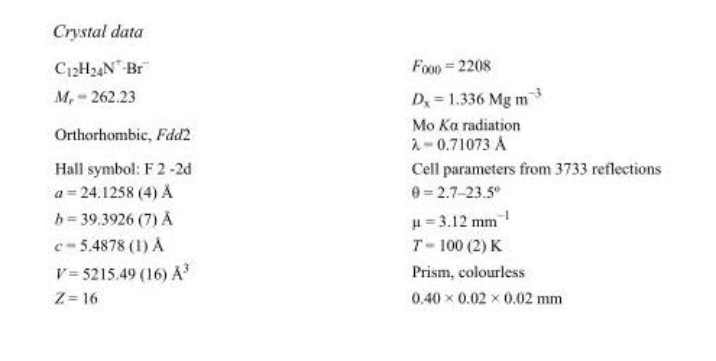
<table><tbody><tr><td>C<sub>12</sub>H<sub>24</sub>N<sup>+</sup>·Br<sup>–</sup></td><td>F<sub>000</sub> = 2208</td></tr><tr><td>M<sub>r</sub> = 262.23</td><td>D<sub>x</sub> = 1.336 Mg m<sup>−3</sup></td></tr><tr><td>Orthorhombic, Fdd2</td><td>Mo Kα radiation λ = 0.71073 Å</td></tr><tr><td>Hall symbol: F 2 -2d</td><td>Cell parameters from 3733 reflections</td></tr><tr><td>a = 24.1258 (4) Å</td><td>θ = 2.7–23.5º</td></tr><tr><td>b = 39.3926 (7) Å</td><td>µ = 3.12 mm<sup>−1</sup></td></tr><tr><td>c = 5.4878 (1) Å</td><td>T = 100 (2) K</td></tr><tr><td>V = 5215.49 (16) Å<sup>3</sup></td><td>Prism, colourless</td></tr><tr><td>Z = 16</td><td>0.40 × 0.02 × 0.02 mm</td></tr></tbody></table>